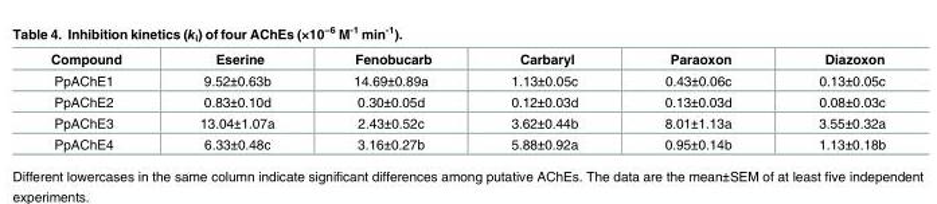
<table><thead><tr><td>Compound</td><td>Eserine</td><td>Fenobucarb</td><td>Carbaryl</td><td>Paraoxon</td><td>Diazoxon</td></tr></thead><tbody><tr><td>PpAChE1</td><td>9.52±0.63b</td><td>14.69±0.89a</td><td>1.13±0.05c</td><td>0.43±0.06c</td><td>0.13±0.05c</td></tr><tr><td>PpAChE2</td><td>0.83±0.10d</td><td>0.30±0.05d</td><td>0.12±0.03d</td><td>0.13±0.03d</td><td>0.08±0.03c</td></tr><tr><td>PpAChE3</td><td>13.04±1.07a</td><td>2.43±0.52c</td><td>3.62±0.44b</td><td>8.01±1.13a</td><td>3.55±0.32a</td></tr><tr><td>PpAChE4</td><td>6.33±0.48c</td><td>3.16±0.27b</td><td>5.88±0.92a</td><td>0.95±0.14b</td><td>1.13±0.18b</td></tr></tbody></table>